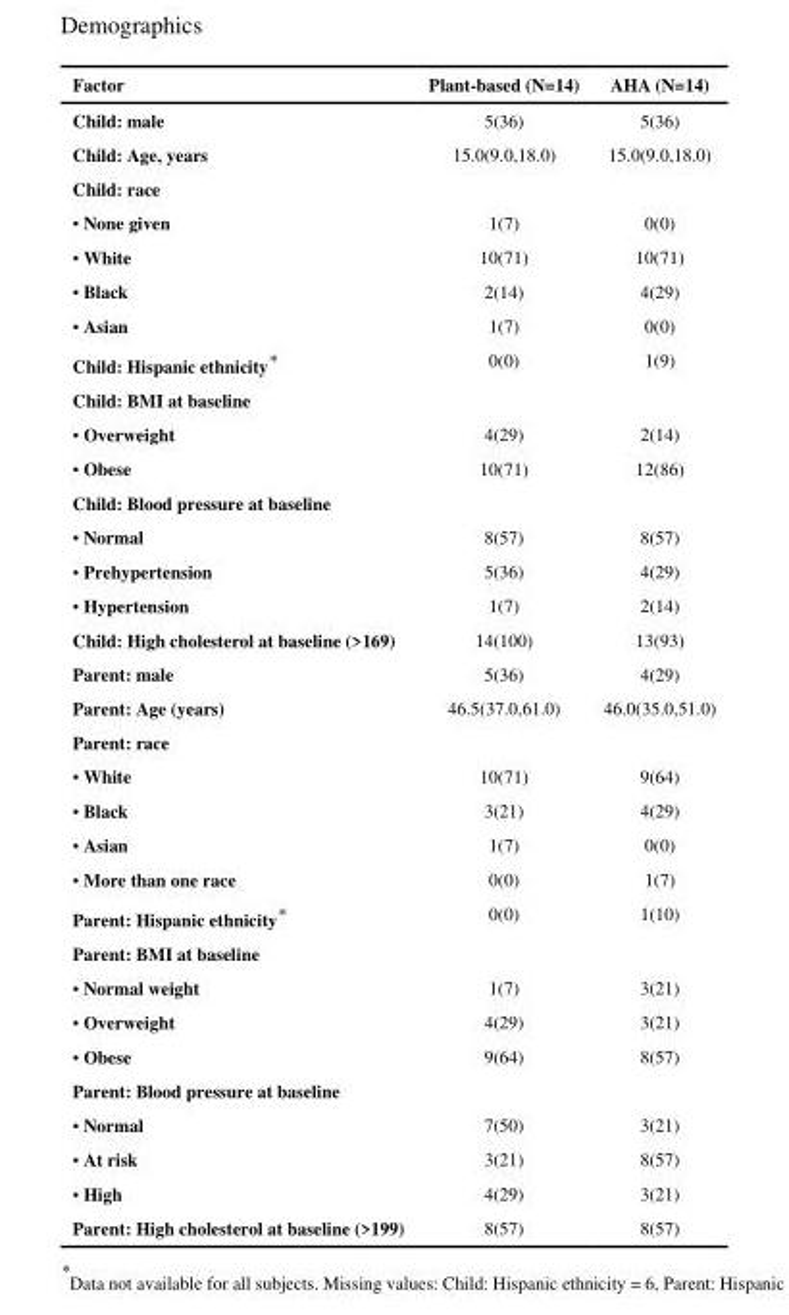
<table><thead><tr><td>Factor</td><td>Plant-based (N=14)</td><td>AHA (N=14)</td></tr></thead><tbody><tr><td>Child: male</td><td>5(36)</td><td>5(36)</td></tr><tr><td>Child: Age, years</td><td>15.0(9.0,18.0)</td><td>15.0(9.0,18.0)</td></tr><tr><td colspan="3">Child: race</td></tr><tr><td>• None given</td><td>1(7)</td><td>0(0)</td></tr><tr><td>• White</td><td>10(71)</td><td>10(71)</td></tr><tr><td>• Black</td><td>2(14)</td><td>4(29)</td></tr><tr><td>• Asian</td><td>1(7)</td><td>0(0)</td></tr><tr><td>Child: Hispanic ethnicity*</td><td>0(0)</td><td>1(9)</td></tr><tr><td colspan="3">Child: BMI at baseline</td></tr><tr><td>• Overweight</td><td>4(29)</td><td>2(14)</td></tr><tr><td>• Obese</td><td>10(71)</td><td>12(86)</td></tr><tr><td colspan="3">Child: Blood pressure at baseline</td></tr><tr><td>• Normal</td><td>8(57)</td><td>8(57)</td></tr><tr><td>• Prehypertension</td><td>5(36)</td><td>4(29)</td></tr><tr><td>• Hypertension</td><td>1(7)</td><td>2(14)</td></tr><tr><td>Child: High cholesterol at baseline (&gt;169)</td><td>14(100)</td><td>13(93)</td></tr><tr><td>Parent: male</td><td>5(36)</td><td>4(29)</td></tr><tr><td>Parent: Age (years)</td><td>46.5(37.0,61.0)</td><td>46.0(35.0,51.0)</td></tr><tr><td colspan="3">Parent: race</td></tr><tr><td>• White</td><td>10(71)</td><td>9(64)</td></tr><tr><td>• Black</td><td>3(21)</td><td>4(29)</td></tr><tr><td>• Asian</td><td>1(7)</td><td>0(0)</td></tr><tr><td>• More than one race</td><td>0(0)</td><td>1(7)</td></tr><tr><td>Parent: Hispanic ethnicity*</td><td>0(0)</td><td>1(10)</td></tr><tr><td colspan="3">Parent: BMI at baseline</td></tr><tr><td>• Normal weight</td><td>1(7)</td><td>3(21)</td></tr><tr><td>• Overweight</td><td>4(29)</td><td>3(21)</td></tr><tr><td>• Obese</td><td>9(64)</td><td>8(57)</td></tr><tr><td colspan="3">Parent: Blood pressure at baseline</td></tr><tr><td>• Normal</td><td>7(50)</td><td>3(21)</td></tr><tr><td>• At risk</td><td>3(21)</td><td>8(57)</td></tr><tr><td>• High</td><td>4(29)</td><td>3(21)</td></tr><tr><td>Parent: High cholesterol at baseline (&gt;199)</td><td>8(57)</td><td>8(57)</td></tr></tbody></table>